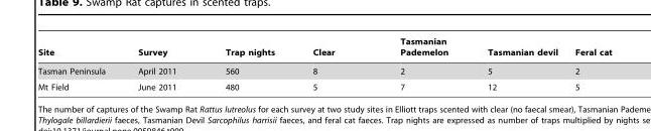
<table><thead><tr><td>Site</td><td>Survey</td><td>Trap nights</td><td>Clear</td><td>Tasmanian Pademelon</td><td>Tasmanian devil</td><td>Feral cat</td></tr></thead><tbody><tr><td>Tasman Peninsula</td><td>April 2011</td><td>560</td><td>8</td><td>2</td><td>5</td><td>2</td></tr><tr><td>Mt Field</td><td>June 2011</td><td>480</td><td>5</td><td>7</td><td>12</td><td>5</td></tr></tbody></table>